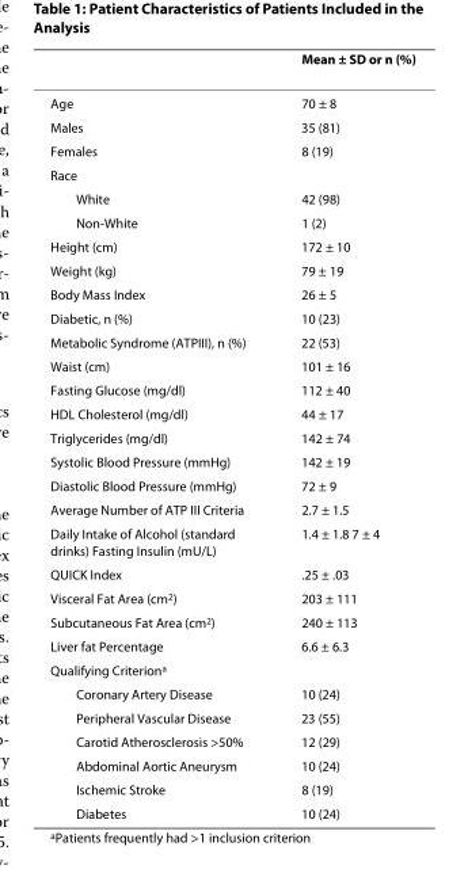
<table><thead><tr><td></td><td>Mean ± SD or n (%)</td></tr></thead><tbody><tr><td>Age</td><td>70 ± 8</td></tr><tr><td>Males</td><td>35 (81)</td></tr><tr><td>Females</td><td>8 (19)</td></tr><tr><td colspan="2">Race</td></tr><tr><td>White</td><td>42 (98)</td></tr><tr><td>Non-White</td><td>1 (2)</td></tr><tr><td>Height (cm)</td><td>172 ± 10</td></tr><tr><td>Weight (kg)</td><td>79 ± 19</td></tr><tr><td>Body Mass Index</td><td>26 ± 5</td></tr><tr><td>Diabetic, n (%)</td><td>10 (23)</td></tr><tr><td>Metabolic Syndrome (ATPIII), n (%)</td><td>22 (53)</td></tr><tr><td>Waist (cm)</td><td>101 ± 16</td></tr><tr><td>Fasting Glucose (mg/dl)</td><td>112 ± 40</td></tr><tr><td>HDL Cholesterol (mg/dl)</td><td>44 ± 17</td></tr><tr><td>Triglycerides (mg/dl)</td><td>142 ± 74</td></tr><tr><td>Systolic Blood Pressure (mmHg)</td><td>142 ± 19</td></tr><tr><td>Diastolic Blood Pressure (mmHg)</td><td>72 ± 9</td></tr><tr><td>Average Number of ATP III Criteria</td><td>2.7 ± 1.5</td></tr><tr><td>Daily Intake of Alcohol (standard drinks) Fasting Insulin (mU/L)</td><td>1.4 ± 1.8 7 ± 4</td></tr><tr><td>QUICK Index</td><td>.25 ± .03</td></tr><tr><td>Visceral Fat Area (cm<sup>2</sup>)</td><td>203 ± 111</td></tr><tr><td>Subcutaneous Fat Area (cm<sup>2</sup>)</td><td>240 ± 113</td></tr><tr><td>Liver fat Percentage</td><td>6.6 ± 6.3</td></tr><tr><td colspan="2">Qualifying Criterion<sup>a</sup></td></tr><tr><td>Coronary Artery Disease</td><td>10 (24)</td></tr><tr><td>Peripheral Vascular Disease</td><td>23 (55)</td></tr><tr><td>Carotid Atherosclerosis &gt;50%</td><td>12 (29)</td></tr><tr><td>Abdominal Aortic Aneurysm</td><td>10 (24)</td></tr><tr><td>Ischemic Stroke</td><td>8 (19)</td></tr><tr><td>Diabetes</td><td>10 (24)</td></tr></tbody></table>